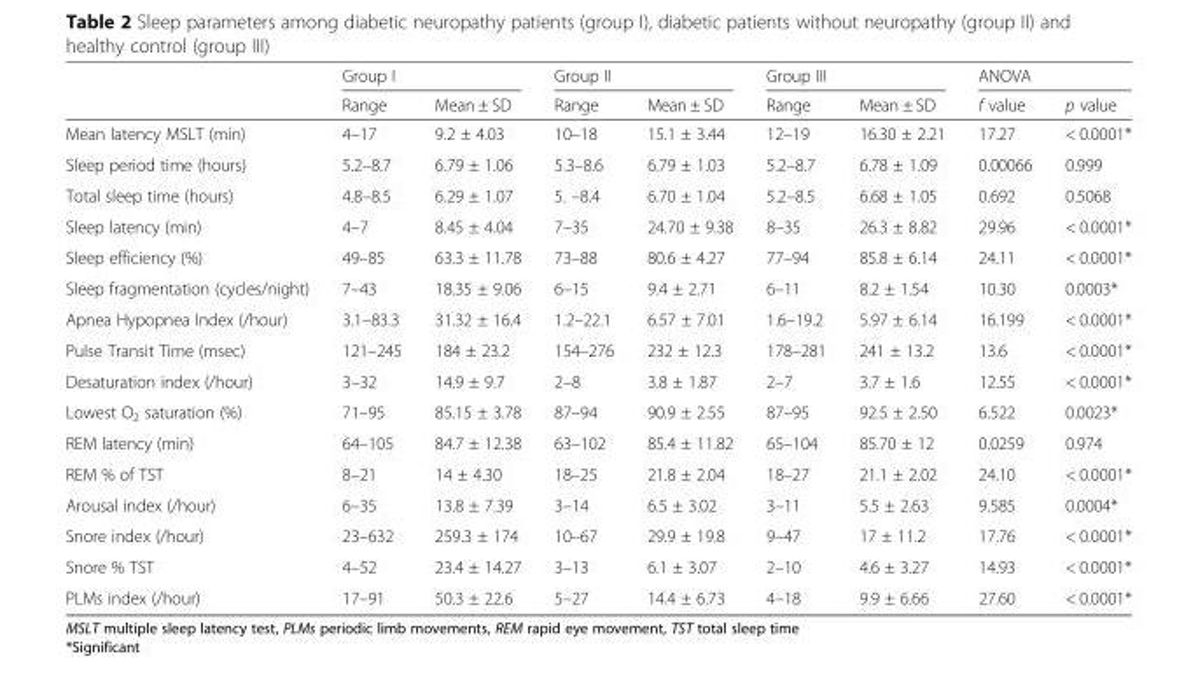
<table><thead><tr><td rowspan="2"></td><td colspan="2">Group I</td><td colspan="2">Group II</td><td colspan="2">Group III</td><td colspan="2">ANOVA</td></tr><tr><td>Range</td><td>Mean ± SD</td><td>Range</td><td>Mean ± SD</td><td>Range</td><td>Mean ± SD</td><td>f value</td><td>p value</td></tr></thead><tbody><tr><td>Mean latency MSLT (min)</td><td>4–17</td><td>9.2 ± 4.03</td><td>10–18</td><td>15.1 ± 3.44</td><td>12–19</td><td>16.30 ± 2.21</td><td>17.27</td><td>&lt; 0.0001*</td></tr><tr><td>Sleep period time (hours)</td><td>5.2–8.7</td><td>6.79 ± 1.06</td><td>5.3–8.6</td><td>6.79 ± 1.03</td><td>5.2–8.7</td><td>6.78 ± 1.09</td><td>0.00066</td><td>0.999</td></tr><tr><td>Total sleep time (hours)</td><td>4.8–8.5</td><td>6.29 ± 1.07</td><td>5. –8.4</td><td>6.70 ± 1.04</td><td>5.2–8.5</td><td>6.68 ± 1.05</td><td>0.692</td><td>0.5068</td></tr><tr><td>Sleep latency (min)</td><td>4–7</td><td>8.45 ± 4.04</td><td>7–35</td><td>24.70 ± 9.38</td><td>8–35</td><td>26.3 ± 8.82</td><td>29.96</td><td>&lt; 0.0001*</td></tr><tr><td>Sleep efficiency (%)</td><td>49–85</td><td>63.3 ± 11.78</td><td>73–88</td><td>80.6 ± 4.27</td><td>77–94</td><td>85.8 ± 6.14</td><td>24.11</td><td>&lt; 0.0001*</td></tr><tr><td>Sleep fragmentation (cycles/night)</td><td>7–43</td><td>18.35 ± 9.06</td><td>6–15</td><td>9.4 ± 2.71</td><td>6–11</td><td>8.2 ± 1.54</td><td>10.30</td><td>0.0003*</td></tr><tr><td>Apnea Hypopnea Index (/hour)</td><td>3.1–83.3</td><td>31.32 ± 16.4</td><td>1.2–22.1</td><td>6.57 ± 7.01</td><td>1.6–19.2</td><td>5.97 ± 6.14</td><td>16.199</td><td>&lt; 0.0001*</td></tr><tr><td>Pulse Transit Time (msec)</td><td>121–245</td><td>184 ± 23.2</td><td>154–276</td><td>232 ± 12.3</td><td>178–281</td><td>241 ± 13.2</td><td>13.6</td><td>&lt; 0.0001*</td></tr><tr><td>Desaturation index (/hour)</td><td>3–32</td><td>14.9 ± 9.7</td><td>2–8</td><td>3.8 ± 1.87</td><td>2–7</td><td>3.7 ± 1.6</td><td>12.55</td><td>&lt; 0.0001*</td></tr><tr><td>Lowest O<sub>2</sub> saturation (%)</td><td>71–95</td><td>85.15 ± 3.78</td><td>87–94</td><td>90.9 ± 2.55</td><td>87–95</td><td>92.5 ± 2.50</td><td>6.522</td><td>0.0023*</td></tr><tr><td>REM latency (min)</td><td>64–105</td><td>84.7 ± 12.38</td><td>63–102</td><td>85.4 ± 11.82</td><td>65–104</td><td>85.70 ± 12</td><td>0.0259</td><td>0.974</td></tr><tr><td>REM % of TST</td><td>8–21</td><td>14 ± 4.30</td><td>18–25</td><td>21.8 ± 2.04</td><td>18–27</td><td>21.1 ± 2.02</td><td>24.10</td><td>&lt; 0.0001*</td></tr><tr><td>Arousal index (/hour)</td><td>6–35</td><td>13.8 ± 7.39</td><td>3–14</td><td>6.5 ± 3.02</td><td>3–11</td><td>5.5 ± 2.63</td><td>9.585</td><td>0.0004*</td></tr><tr><td>Snore index (/hour)</td><td>23–632</td><td>259.3 ± 174</td><td>10–67</td><td>29.9 ± 19.8</td><td>9–47</td><td>17 ± 11.2</td><td>17.76</td><td>&lt; 0.0001*</td></tr><tr><td>Snore % TST</td><td>4–52</td><td>23.4 ± 14.27</td><td>3–13</td><td>6.1 ± 3.07</td><td>2–10</td><td>4.6 ± 3.27</td><td>14.93</td><td>&lt; 0.0001*</td></tr><tr><td>PLMs index (/hour)</td><td>17–91</td><td>50.3 ± 22.6</td><td>5–27</td><td>14.4 ± 6.73</td><td>4–18</td><td>9.9 ± 6.66</td><td>27.60</td><td>&lt; 0.0001*</td></tr></tbody></table>